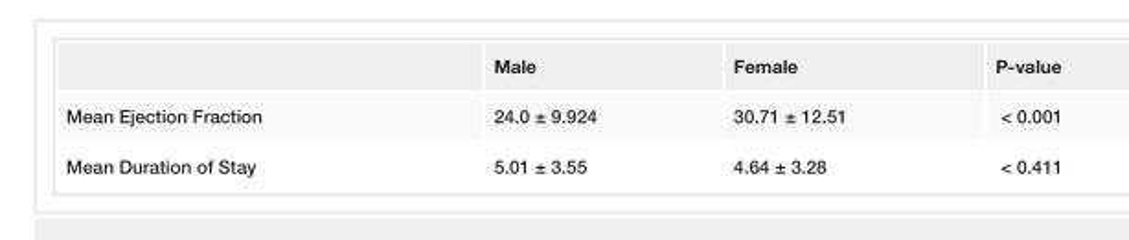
<table><thead><tr><td></td><td>Male</td><td>Female</td><td>P-value</td></tr></thead><tbody><tr><td>Mean Ejection Fraction</td><td>24.0 ± 9.924</td><td>30.71 ± 12.51</td><td>&lt; 0.001</td></tr><tr><td>Mean Duration of Stay</td><td>5.01 ± 3.55</td><td>4.64 ± 3.28</td><td>&lt; 0.411</td></tr></tbody></table>